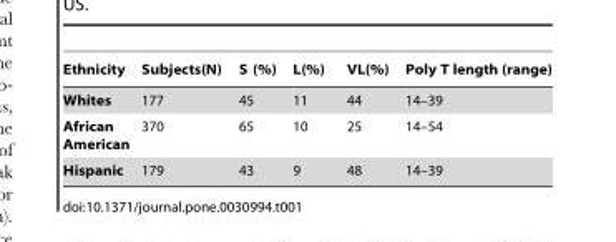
<table><thead><tr><td>Ethnicity</td><td>Subjects(N)</td><td>S (%)</td><td>L(%)</td><td>VL(%)</td><td>Poly T length (range)</td></tr></thead><tbody><tr><td>Whites</td><td>177</td><td>45</td><td>11</td><td>44</td><td>14–39</td></tr><tr><td>African American</td><td>370</td><td>65</td><td>10</td><td>25</td><td>14–54</td></tr><tr><td>Hispanic</td><td>179</td><td>43</td><td>9</td><td>48</td><td>14–39</td></tr></tbody></table>